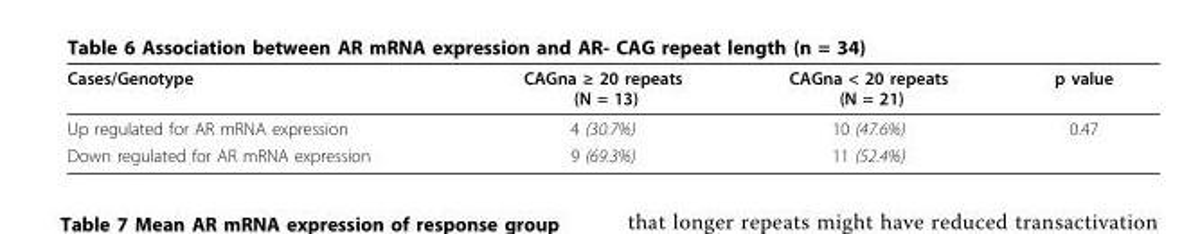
<table><thead><tr><td>Cases/Genotype</td><td>CAGna ≥ 20 repeats (N = 13)</td><td>CAGna &lt; 20 repeats (N = 21)</td><td>p value</td></tr></thead><tbody><tr><td>Up regulated for AR mRNA expression</td><td>4 (30.7%)</td><td>10 (47.6%)</td><td>0.47</td></tr><tr><td>Down regulated for AR mRNA expression</td><td>9 (69.3%)</td><td>11 (52.4%)</td><td></td></tr></tbody></table>